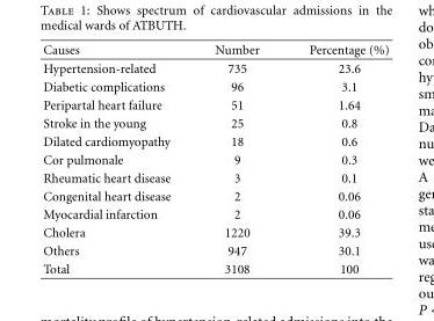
<table><thead><tr><td>Causes</td><td>Number</td><td>Percentage (%)</td></tr></thead><tbody><tr><td>Hypertension-related</td><td>735</td><td>23.6</td></tr><tr><td>Diabetic complications</td><td>96</td><td>3.1</td></tr><tr><td>Peripartal heart failure</td><td>51</td><td>1.64</td></tr><tr><td>Stroke in the young</td><td>25</td><td>0.8</td></tr><tr><td>Dilated cardiomyopathy</td><td>18</td><td>0.6</td></tr><tr><td>Cor pulmonale</td><td>9</td><td>0.3</td></tr><tr><td>Rheumatic heart disease</td><td>3</td><td>0.1</td></tr><tr><td>Congenital heart disease</td><td>2</td><td>0.06</td></tr><tr><td>Myocardial infarction</td><td>2</td><td>0.06</td></tr><tr><td>Cholera</td><td>1220</td><td>39.3</td></tr><tr><td>Others</td><td>947</td><td>30.1</td></tr><tr><td>Total</td><td>3108</td><td>100</td></tr></tbody></table>